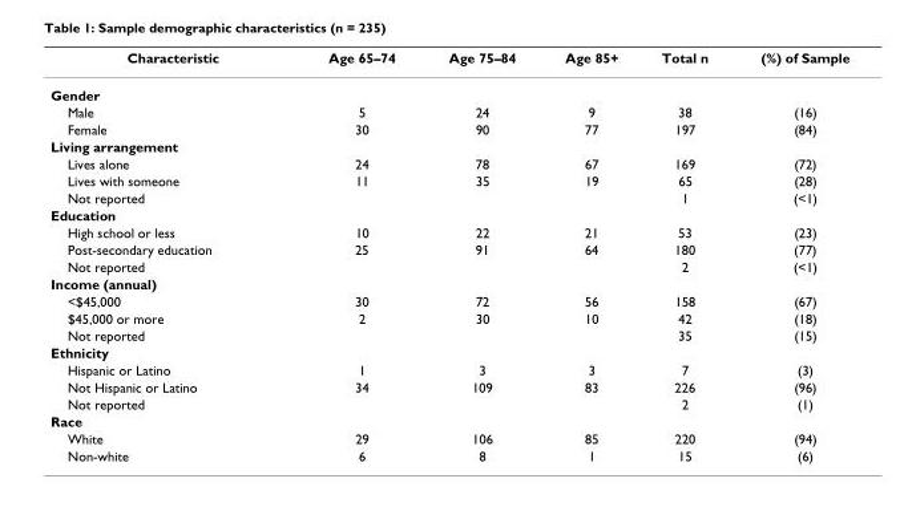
<table><thead><tr><td>Characteristic</td><td>Age 65–74</td><td>Age 75–84</td><td>Age 85+</td><td>Total n</td><td>(%) of Sample</td></tr></thead><tbody><tr><td colspan="6">Gender</td></tr><tr><td>Male</td><td>5</td><td>24</td><td>9</td><td>38</td><td>(16)</td></tr><tr><td>Female</td><td>30</td><td>90</td><td>77</td><td>197</td><td>(84)</td></tr><tr><td colspan="6">Living arrangement</td></tr><tr><td>Lives alone</td><td>24</td><td>78</td><td>67</td><td>169</td><td>(72)</td></tr><tr><td>Lives with someone</td><td>11</td><td>35</td><td>19</td><td>65</td><td>(28)</td></tr><tr><td>Not reported</td><td></td><td></td><td></td><td>1</td><td>(&lt;1)</td></tr><tr><td colspan="6">Education</td></tr><tr><td>High school or less</td><td>10</td><td>22</td><td>21</td><td>53</td><td>(23)</td></tr><tr><td>Post-secondary education</td><td>25</td><td>91</td><td>64</td><td>180</td><td>(77)</td></tr><tr><td>Not reported</td><td></td><td></td><td></td><td>2</td><td>(&lt;1)</td></tr><tr><td colspan="6">Income (annual)</td></tr><tr><td>&lt;$45,000</td><td>30</td><td>72</td><td>56</td><td>158</td><td>(67)</td></tr><tr><td>$45,000 or more</td><td>2</td><td>30</td><td>10</td><td>42</td><td>(18)</td></tr><tr><td>Not reported</td><td></td><td></td><td></td><td>35</td><td>(15)</td></tr><tr><td colspan="6">Ethnicity</td></tr><tr><td>Hispanic or Latino</td><td>1</td><td>3</td><td>3</td><td>7</td><td>(3)</td></tr><tr><td>Not Hispanic or Latino</td><td>34</td><td>109</td><td>83</td><td>226</td><td>(96)</td></tr><tr><td>Not reported</td><td></td><td></td><td></td><td>2</td><td>(1)</td></tr><tr><td colspan="6">Race</td></tr><tr><td>White</td><td>29</td><td>106</td><td>85</td><td>220</td><td>(94)</td></tr><tr><td>Non-white</td><td>6</td><td>8</td><td>1</td><td>15</td><td>(6)</td></tr></tbody></table>